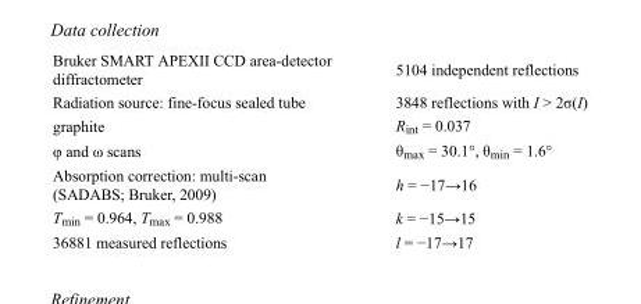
<table><tbody><tr><td>Bruker SMART APEXII CCD area-detector diffractometer</td><td>5104 independent reflections</td></tr><tr><td>Radiation source: fine-focus sealed tube</td><td>3848 reflections with I &gt; 2σ(I)</td></tr><tr><td>graphite</td><td>R<sub>int</sub> = 0.037</td></tr><tr><td>φ and ω scans</td><td>θ<sub>max</sub> = 30.1°, θ<sub>min</sub> = 1.6°</td></tr><tr><td>Absorption correction: multi-scan (SADABS; Bruker, 2009)</td><td>h = −17→16</td></tr><tr><td>T<sub>min</sub> = 0.964, T<sub>max</sub> = 0.988</td><td>k = −15→15</td></tr><tr><td>36881 measured reflections</td><td>l = −17→17</td></tr></tbody></table>